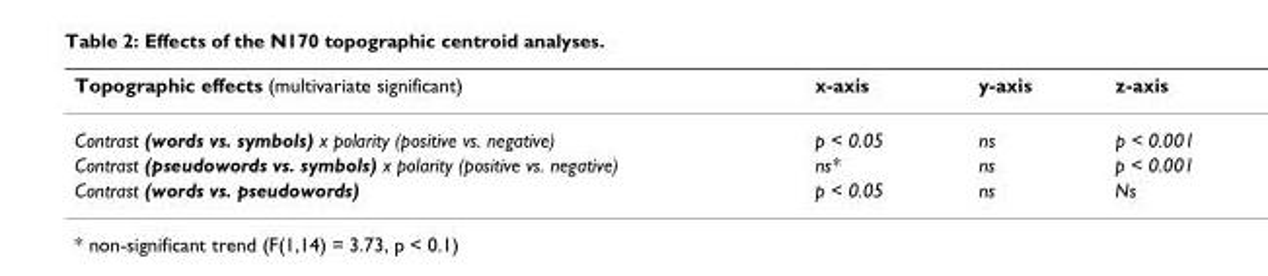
<table><thead><tr><td>Topographic effects (multivariate significant)</td><td>x-axis</td><td>y-axis</td><td>z-axis</td></tr></thead><tbody><tr><td>Contrast (words vs. symbols) x polarity (positive vs. negative)</td><td>p &lt; 0.05</td><td>ns</td><td>p &lt; 0.001</td></tr><tr><td>Contrast (pseudowords vs. symbols) x polarity (positive vs. negative)</td><td>ns*</td><td>ns</td><td>p &lt; 0.001</td></tr><tr><td>Contrast (words vs. pseudowords)</td><td>p &lt; 0.05</td><td>ns</td><td>Ns</td></tr></tbody></table>